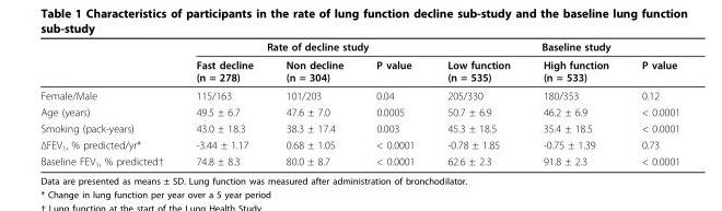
<table><thead><tr><td rowspan="2"></td><td colspan="3">Rate of decline study</td><td colspan="3">Baseline study</td></tr><tr><td>Fast decline (n = 278)</td><td>Non decline (n = 304)</td><td>P value</td><td>Low function (n = 535)</td><td>High function (n = 533)</td><td>P value</td></tr></thead><tbody><tr><td>Female/Male</td><td>115/163</td><td>101/203</td><td>0.04</td><td>205/330</td><td>180/353</td><td>0.12</td></tr><tr><td>Age (years)</td><td>49.5 ± 6.7</td><td>47.6 ± 7.0</td><td>0.0005</td><td>50.7 ± 6.9</td><td>46.2 ± 6.9</td><td>&lt; 0.0001</td></tr><tr><td>Smoking (pack-years)</td><td>43.0 ± 18.3</td><td>38.3 ± 17.4</td><td>0.003</td><td>45.3 ± 18.5</td><td>35.4 ± 18.5</td><td>&lt; 0.0001</td></tr><tr><td>ΔFEV<sub>1</sub>, % predicted/yr*</td><td>-3.44 ± 1.17</td><td>0.68 ± 1.05</td><td>&lt; 0.0001</td><td>-0.78 ± 1.85</td><td>-0.75 ± 1.39</td><td>0.73</td></tr><tr><td>Baseline FEV<sub>1</sub>, % predicted†</td><td>74.8 ± 8.3</td><td>80.0 ± 8.7</td><td>&lt; 0.0001</td><td>62.6 ± 2.3</td><td>91.8 ± 2.3</td><td>&lt; 0.0001</td></tr></tbody></table>